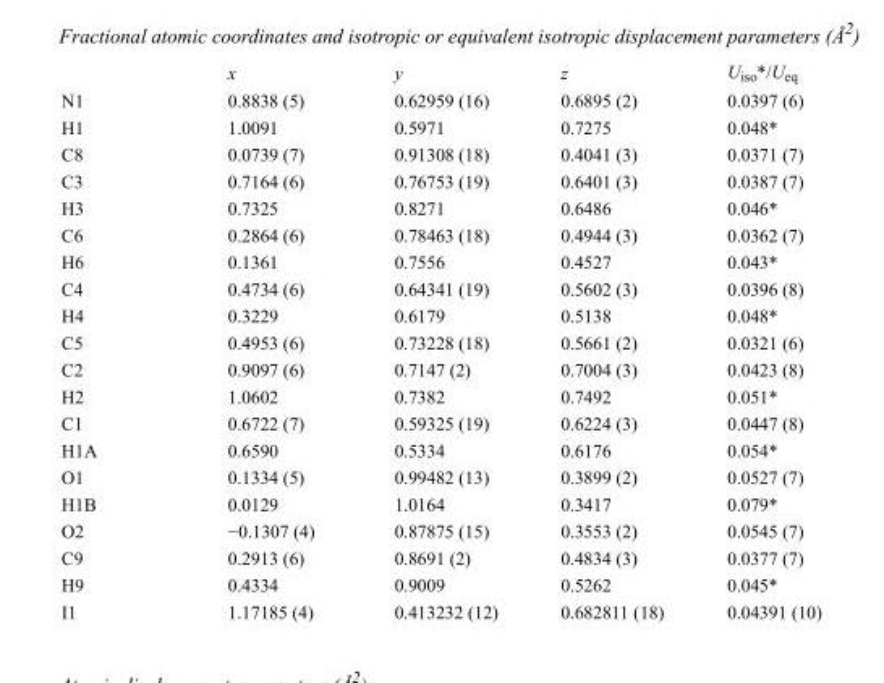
<table><thead><tr><td></td><td>x</td><td>y</td><td>z</td><td>U<sub>iso</sub>*/U<sub>eq</sub></td></tr></thead><tbody><tr><td>N1</td><td>0.8838 (5)</td><td>0.62959 (16)</td><td>0.6895 (2)</td><td>0.0397 (6)</td></tr><tr><td>H1</td><td>1.0091</td><td>0.5971</td><td>0.7275</td><td>0.048*</td></tr><tr><td>C8</td><td>0.0739 (7)</td><td>0.91308 (18)</td><td>0.4041 (3)</td><td>0.0371 (7)</td></tr><tr><td>C3</td><td>0.7164 (6)</td><td>0.76753 (19)</td><td>0.6401 (3)</td><td>0.0387 (7)</td></tr><tr><td>H3</td><td>0.7325</td><td>0.8271</td><td>0.6486</td><td>0.046*</td></tr><tr><td>C6</td><td>0.2864 (6)</td><td>0.78463 (18)</td><td>0.4944 (3)</td><td>0.0362 (7)</td></tr><tr><td>H6</td><td>0.1361</td><td>0.7556</td><td>0.4527</td><td>0.043*</td></tr><tr><td>C4</td><td>0.4734 (6)</td><td>0.64341 (19)</td><td>0.5602 (3)</td><td>0.0396 (8)</td></tr><tr><td>H4</td><td>0.3229</td><td>0.6179</td><td>0.5138</td><td>0.048*</td></tr><tr><td>C5</td><td>0.4953 (6)</td><td>0.73228 (18)</td><td>0.5661 (2)</td><td>0.0321 (6)</td></tr><tr><td>C2</td><td>0.9097 (6)</td><td>0.7147 (2)</td><td>0.7004 (3)</td><td>0.0423 (8)</td></tr><tr><td>H2</td><td>1.0602</td><td>0.7382</td><td>0.7492</td><td>0.051*</td></tr><tr><td>C1</td><td>0.6722 (7)</td><td>0.59325 (19)</td><td>0.6224 (3)</td><td>0.0447 (8)</td></tr><tr><td>H1A</td><td>0.6590</td><td>0.5334</td><td>0.6176</td><td>0.054*</td></tr><tr><td>O1</td><td>0.1334 (5)</td><td>0.99482 (13)</td><td>0.3899 (2)</td><td>0.0527 (7)</td></tr><tr><td>H1B</td><td>0.0129</td><td>1.0164</td><td>0.3417</td><td>0.079*</td></tr><tr><td>O2</td><td>−0.1307 (4)</td><td>0.87875 (15)</td><td>0.3553 (2)</td><td>0.0545 (7)</td></tr><tr><td>C9</td><td>0.2913 (6)</td><td>0.8691 (2)</td><td>0.4834 (3)</td><td>0.0377 (7)</td></tr><tr><td>H9</td><td>0.4334</td><td>0.9009</td><td>0.5262</td><td>0.045*</td></tr><tr><td>I1</td><td>1.17185 (4)</td><td>0.413232 (12)</td><td>0.682811 (18)</td><td>0.04391 (10)</td></tr></tbody></table>